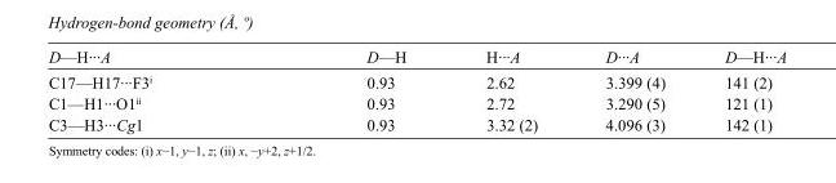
<table><tbody><tr><td>D—H···A</td><td>D—H</td><td>H···A</td><td>D···A</td><td>D—H···A</td></tr><tr><td>C17—H17···F3<sup>i</sup></td><td>0.93</td><td>2.62</td><td>3.399 (4)</td><td>141 (2)</td></tr><tr><td>C1—H1···O1<sup>ii</sup></td><td>0.93</td><td>2.72</td><td>3.290 (5)</td><td>121 (1)</td></tr><tr><td>C3—H3···Cg1</td><td>0.93</td><td>3.32 (2)</td><td>4.096 (3)</td><td>142 (1)</td></tr></tbody></table>